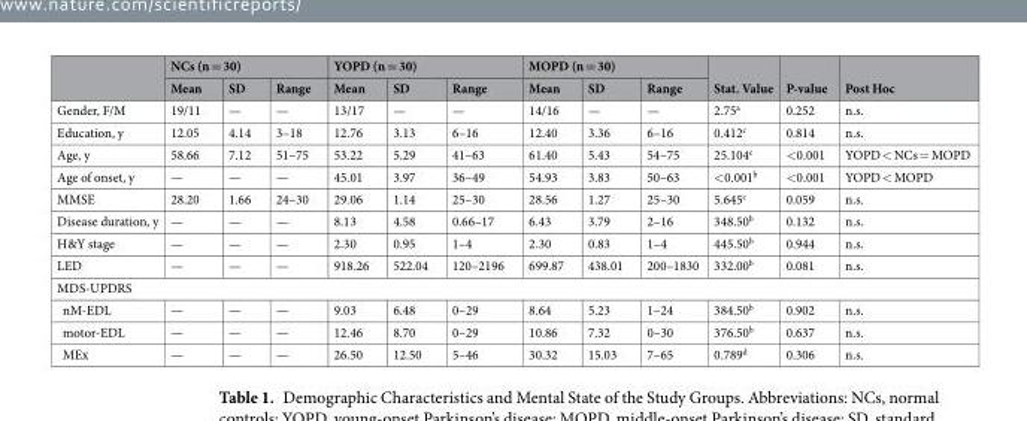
<table><thead><tr><td rowspan="2"></td><td colspan="3">NCs (n = 30)</td><td colspan="3">YOPD (n = 30)</td><td colspan="3">MOPD (n = 30)</td><td rowspan="2">Stat. Value</td><td rowspan="2">P-value</td><td rowspan="2">Post Hoc</td></tr><tr><td>Mean</td><td>SD</td><td>Range</td><td>Mean</td><td>SD</td><td>Range</td><td>Mean</td><td>SD</td><td>Range</td></tr></thead><tbody><tr><td>Gender, F/M</td><td>19/11</td><td>—</td><td>—</td><td>13/17</td><td>—</td><td>—</td><td>14/16</td><td>—</td><td>—</td><td>2.75<sup>a</sup></td><td>0.252</td><td>n.s.</td></tr><tr><td>Education, y</td><td>12.05</td><td>4.14</td><td>3–18</td><td>12.76</td><td>3.13</td><td>6–16</td><td>12.40</td><td>3.36</td><td>6–16</td><td>0.412<sup>c</sup></td><td>0.814</td><td>n.s.</td></tr><tr><td>Age, y</td><td>58.66</td><td>7.12</td><td>51–75</td><td>53.22</td><td>5.29</td><td>41–63</td><td>61.40</td><td>5.43</td><td>54–75</td><td>25.104<sup>c</sup></td><td>&lt;0.001</td><td>YOPD &lt; NCs = MOPD</td></tr><tr><td>Age of onset, y</td><td>—</td><td>—</td><td>—</td><td>45.01</td><td>3.97</td><td>36–49</td><td>54.93</td><td>3.83</td><td>50–63</td><td>&lt;0.001<sup>b</sup></td><td>&lt;0.001</td><td>YOPD &lt; MOPD</td></tr><tr><td>MMSE</td><td>28.20</td><td>1.66</td><td>24–30</td><td>29.06</td><td>1.14</td><td>25–30</td><td>28.56</td><td>1.27</td><td>25–30</td><td>5.645<sup>c</sup></td><td>0.059</td><td>n.s.</td></tr><tr><td>Disease duration, y</td><td>—</td><td>—</td><td>—</td><td>8.13</td><td>4.58</td><td>0.66–17</td><td>6.43</td><td>3.79</td><td>2–16</td><td>348.50<sup>b</sup></td><td>0.132</td><td>n.s.</td></tr><tr><td>H&amp;Y stage</td><td>—</td><td>—</td><td>—</td><td>2.30</td><td>0.95</td><td>1–4</td><td>2.30</td><td>0.83</td><td>1–4</td><td>445.50<sup>b</sup></td><td>0.944</td><td>n.s.</td></tr><tr><td>LED</td><td>—</td><td>—</td><td>—</td><td>918.26</td><td>522.04</td><td>120–2196</td><td>699.87</td><td>438.01</td><td>200–1830</td><td>332.00<sup>b</sup></td><td>0.081</td><td>n.s.</td></tr><tr><td colspan="13">MDS-UPDRS</td></tr><tr><td>nM-EDL</td><td>—</td><td>—</td><td>—</td><td>9.03</td><td>6.48</td><td>0–29</td><td>8.64</td><td>5.23</td><td>1–24</td><td>384.50<sup>b</sup></td><td>0.902</td><td>n.s.</td></tr><tr><td>motor-EDL</td><td>—</td><td>—</td><td>—</td><td>12.46</td><td>8.70</td><td>0–29</td><td>10.86</td><td>7.32</td><td>0–30</td><td>376.50<sup>b</sup></td><td>0.637</td><td>n.s.</td></tr><tr><td>MEx</td><td>—</td><td>—</td><td>—</td><td>26.50</td><td>12.50</td><td>5–46</td><td>30.32</td><td>15.03</td><td>7–65</td><td>0.789<sup>d</sup></td><td>0.306</td><td>n.s.</td></tr></tbody></table>